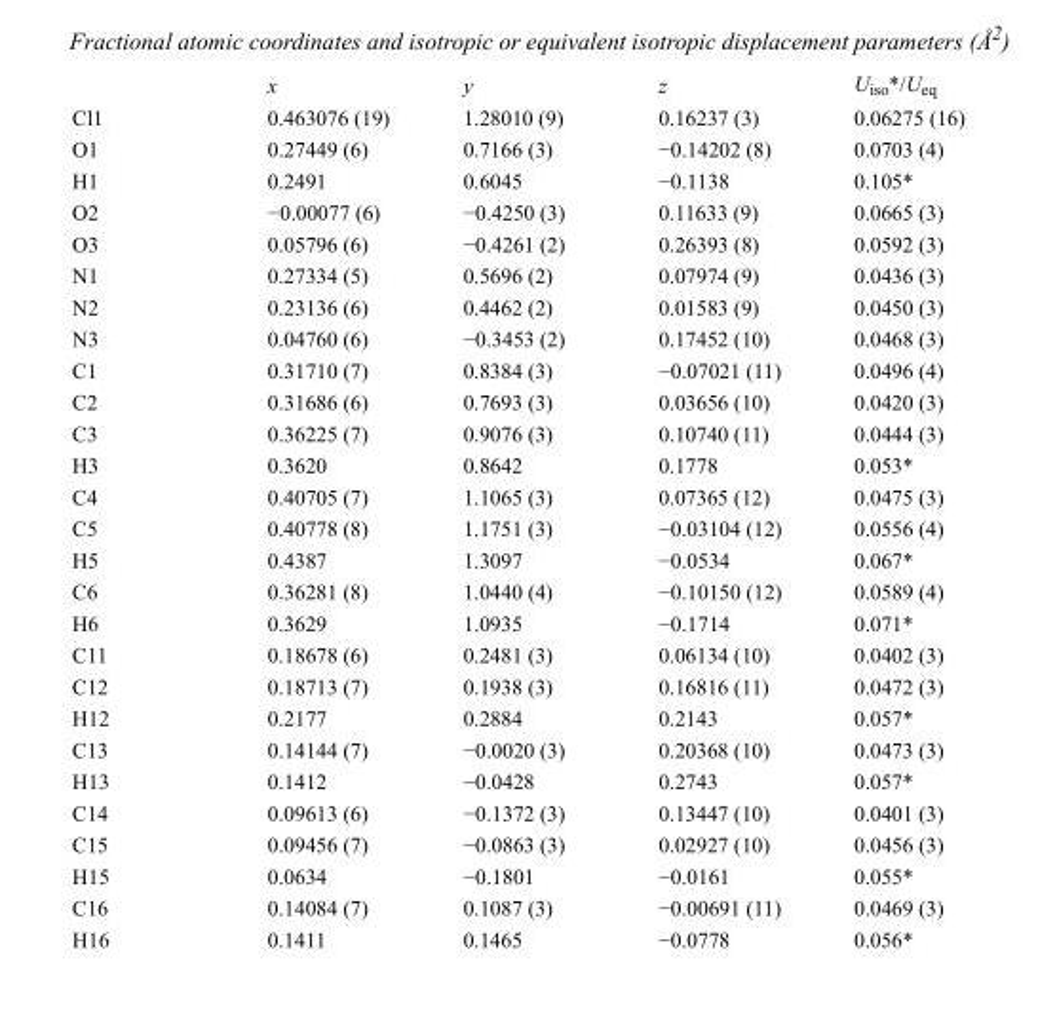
<table><thead><tr><td></td><td>x</td><td>y</td><td>z</td><td>U<sub>iso</sub>*/U<sub>eq</sub></td></tr></thead><tbody><tr><td>Cl1</td><td>0.463076 (19)</td><td>1.28010 (9)</td><td>0.16237 (3)</td><td>0.06275 (16)</td></tr><tr><td>O1</td><td>0.27449 (6)</td><td>0.7166 (3)</td><td>−0.14202 (8)</td><td>0.0703 (4)</td></tr><tr><td>H1</td><td>0.2491</td><td>0.6045</td><td>−0.1138</td><td>0.105*</td></tr><tr><td>O2</td><td>−0.00077 (6)</td><td>−0.4250 (3)</td><td>0.11633 (9)</td><td>0.0665 (3)</td></tr><tr><td>O3</td><td>0.05796 (6)</td><td>−0.4261 (2)</td><td>0.26393 (8)</td><td>0.0592 (3)</td></tr><tr><td>N1</td><td>0.27334 (5)</td><td>0.5696 (2)</td><td>0.07974 (9)</td><td>0.0436 (3)</td></tr><tr><td>N2</td><td>0.23136 (6)</td><td>0.4462 (2)</td><td>0.01583 (9)</td><td>0.0450 (3)</td></tr><tr><td>N3</td><td>0.04760 (6)</td><td>−0.3453 (2)</td><td>0.17452 (10)</td><td>0.0468 (3)</td></tr><tr><td>C1</td><td>0.31710 (7)</td><td>0.8384 (3)</td><td>−0.07021 (11)</td><td>0.0496 (4)</td></tr><tr><td>C2</td><td>0.31686 (6)</td><td>0.7693 (3)</td><td>0.03656 (10)</td><td>0.0420 (3)</td></tr><tr><td>C3</td><td>0.36225 (7)</td><td>0.9076 (3)</td><td>0.10740 (11)</td><td>0.0444 (3)</td></tr><tr><td>H3</td><td>0.3620</td><td>0.8642</td><td>0.1778</td><td>0.053*</td></tr><tr><td>C4</td><td>0.40705 (7)</td><td>1.1065 (3)</td><td>0.07365 (12)</td><td>0.0475 (3)</td></tr><tr><td>C5</td><td>0.40778 (8)</td><td>1.1751 (3)</td><td>−0.03104 (12)</td><td>0.0556 (4)</td></tr><tr><td>H5</td><td>0.4387</td><td>1.3097</td><td>−0.0534</td><td>0.067*</td></tr><tr><td>C6</td><td>0.36281 (8)</td><td>1.0440 (4)</td><td>−0.10150 (12)</td><td>0.0589 (4)</td></tr><tr><td>H6</td><td>0.3629</td><td>1.0935</td><td>−0.1714</td><td>0.071*</td></tr><tr><td>C11</td><td>0.18678 (6)</td><td>0.2481 (3)</td><td>0.06134 (10)</td><td>0.0402 (3)</td></tr><tr><td>C12</td><td>0.18713 (7)</td><td>0.1938 (3)</td><td>0.16816 (11)</td><td>0.0472 (3)</td></tr><tr><td>H12</td><td>0.2177</td><td>0.2884</td><td>0.2143</td><td>0.057*</td></tr><tr><td>C13</td><td>0.14144 (7)</td><td>−0.0020 (3)</td><td>0.20368 (10)</td><td>0.0473 (3)</td></tr><tr><td>H13</td><td>0.1412</td><td>−0.0428</td><td>0.2743</td><td>0.057*</td></tr><tr><td>C14</td><td>0.09613 (6)</td><td>−0.1372 (3)</td><td>0.13447 (10)</td><td>0.0401 (3)</td></tr><tr><td>C15</td><td>0.09456 (7)</td><td>−0.0863 (3)</td><td>0.02927 (10)</td><td>0.0456 (3)</td></tr><tr><td>H15</td><td>0.0634</td><td>−0.1801</td><td>−0.0161</td><td>0.055*</td></tr><tr><td>C16</td><td>0.14084 (7)</td><td>0.1087 (3)</td><td>−0.00691 (11)</td><td>0.0469 (3)</td></tr><tr><td>H16</td><td>0.1411</td><td>0.1465</td><td>−0.0778</td><td>0.056*</td></tr></tbody></table>